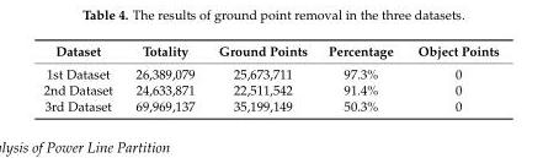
<table><thead><tr><td>Dataset</td><td>Totality</td><td>Ground Points</td><td>Percentage</td><td>Object Points</td></tr></thead><tbody><tr><td>1st Dataset</td><td>26,389,079</td><td>25,673,711</td><td>97.3%</td><td>0</td></tr><tr><td>2nd Dataset</td><td>24,633,871</td><td>22,511,542</td><td>91.4%</td><td>0</td></tr><tr><td>3rd Dataset</td><td>69,969,137</td><td>35,199,149</td><td>50.3%</td><td>0</td></tr></tbody></table>